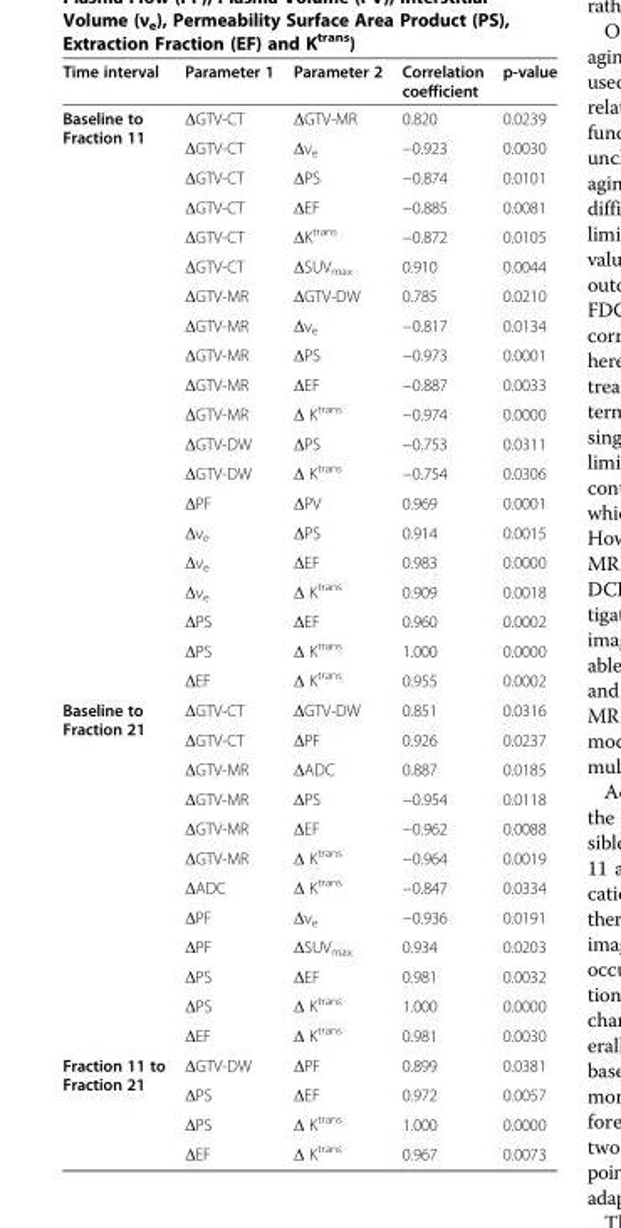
<table><thead><tr><td>Time interval</td><td>Parameter 1</td><td>Parameter 2</td><td>Correlation coefficient</td><td>p-value</td></tr></thead><tbody><tr><td rowspan="20">Baseline to Fraction 11</td><td>ΔGTV-CT</td><td>ΔGTV-MR</td><td>0.820</td><td>0.0239</td></tr><tr><td>ΔGTV-CT</td><td>Δν<sub>e</sub></td><td>−0.923</td><td>0.0030</td></tr><tr><td>ΔGTV-CT</td><td>ΔPS</td><td>−0.874</td><td>0.0101</td></tr><tr><td>ΔGTV-CT</td><td>ΔEF</td><td>−0.885</td><td>0.0081</td></tr><tr><td>ΔGTV-CT</td><td>ΔK<sup>trans</sup></td><td>−0.872</td><td>0.0105</td></tr><tr><td>ΔGTV-CT</td><td>ΔSUV<sub>max</sub></td><td>0.910</td><td>0.0044</td></tr><tr><td>ΔGTV-MR</td><td>ΔGTV-DW</td><td>0.785</td><td>0.0210</td></tr><tr><td>ΔGTV-MR</td><td>Δν<sub>e</sub></td><td>−0.817</td><td>0.0134</td></tr><tr><td>ΔGTV-MR</td><td>ΔPS</td><td>−0.973</td><td>0.0001</td></tr><tr><td>ΔGTV-MR</td><td>ΔEF</td><td>−0.887</td><td>0.0033</td></tr><tr><td>ΔGTV-MR</td><td>Δ K<sup>trans</sup></td><td>−0.974</td><td>0.0000</td></tr><tr><td>ΔGTV-DW</td><td>ΔPS</td><td>−0.753</td><td>0.0311</td></tr><tr><td>ΔGTV-DW</td><td>Δ K<sup>trans</sup></td><td>−0.754</td><td>0.0306</td></tr><tr><td>ΔPF</td><td>ΔPV</td><td>0.969</td><td>0.0001</td></tr><tr><td>Δν<sub>e</sub></td><td>ΔPS</td><td>0.914</td><td>0.0015</td></tr><tr><td>Δν<sub>e</sub></td><td>ΔEF</td><td>0.983</td><td>0.0000</td></tr><tr><td>Δν<sub>e</sub></td><td>Δ K<sup>trans</sup></td><td>0.909</td><td>0.0018</td></tr><tr><td>ΔPS</td><td>ΔEF</td><td>0.960</td><td>0.0002</td></tr><tr><td>ΔPS</td><td>Δ K<sup>trans</sup></td><td>1.000</td><td>0.0000</td></tr><tr><td>ΔEF</td><td>Δ K<sup>trans</sup></td><td>0.955</td><td>0.0002</td></tr><tr><td rowspan="12">Baseline to Fraction 21</td><td>ΔGTV-CT</td><td>ΔGTV-DW</td><td>0.851</td><td>0.0316</td></tr><tr><td>ΔGTV-CT</td><td>ΔPF</td><td>0.926</td><td>0.0237</td></tr><tr><td>ΔGTV-MR</td><td>ΔADC</td><td>0.887</td><td>0.0185</td></tr><tr><td>ΔGTV-MR</td><td>ΔPS</td><td>−0.954</td><td>0.0118</td></tr><tr><td>ΔGTV-MR</td><td>ΔEF</td><td>−0.962</td><td>0.0088</td></tr><tr><td>ΔGTV-MR</td><td>Δ K<sup>trans</sup></td><td>−0.964</td><td>0.0019</td></tr><tr><td>ΔADC</td><td>Δ K<sup>trans</sup></td><td>−0.847</td><td>0.0334</td></tr><tr><td>ΔPF</td><td>Δν<sub>e</sub></td><td>−0.936</td><td>0.0191</td></tr><tr><td>ΔPF</td><td>ΔSUV<sub>max</sub></td><td>0.934</td><td>0.0203</td></tr><tr><td>ΔPS</td><td>ΔEF</td><td>0.981</td><td>0.0032</td></tr><tr><td>ΔPS</td><td>Δ K<sup>trans</sup></td><td>1.000</td><td>0.0000</td></tr><tr><td>ΔEF</td><td>Δ K<sup>trans</sup></td><td>0.981</td><td>0.0030</td></tr><tr><td rowspan="4">Fraction 11 to Fraction 21</td><td>ΔGTV-DW</td><td>ΔPF</td><td>0.899</td><td>0.0381</td></tr><tr><td>ΔPS</td><td>ΔEF</td><td>0.972</td><td>0.0057</td></tr><tr><td>ΔPS</td><td>Δ K<sup>trans</sup></td><td>1.000</td><td>0.0000</td></tr><tr><td>ΔEF</td><td>Δ K<sup>trans</sup></td><td>0.967</td><td>0.0073</td></tr></tbody></table>